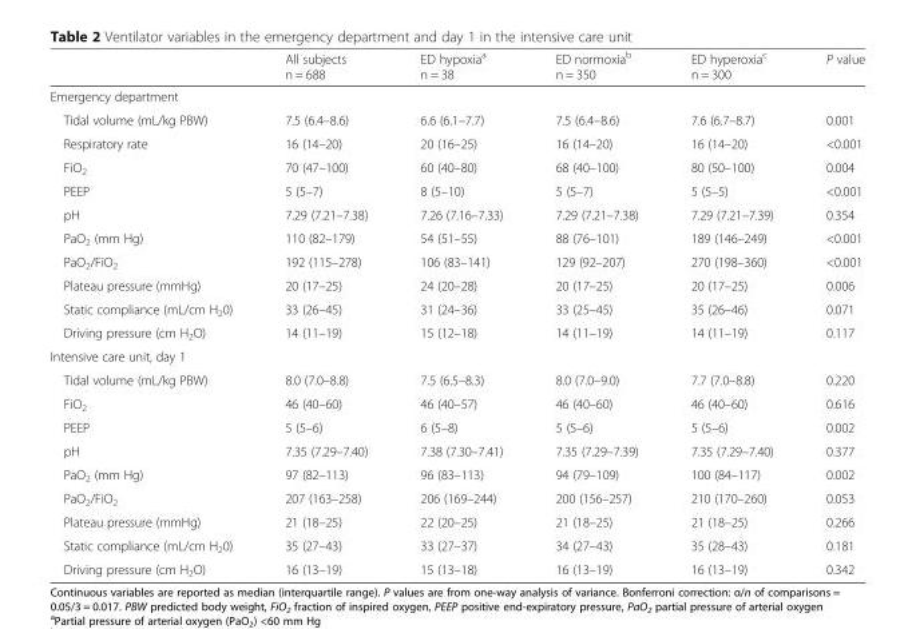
<table><thead><tr><td></td><td>All subjects n = 688</td><td>ED hypoxia<sup>a</sup> n = 38</td><td>ED normoxia<sup>b</sup> n = 350</td><td>ED hyperoxia<sup>c</sup> n = 300</td><td>P value</td></tr></thead><tbody><tr><td colspan="6">Emergency department</td></tr><tr><td>Tidal volume (mL/kg PBW)</td><td>7.5 (6.4–8.6)</td><td>6.6 (6.1–7.7)</td><td>7.5 (6.4–8.6)</td><td>7.6 (6.7–8.7)</td><td>0.001</td></tr><tr><td>Respiratory rate</td><td>16 (14–20)</td><td>20 (16–25)</td><td>16 (14–20)</td><td>16 (14–20)</td><td>&lt;0.001</td></tr><tr><td>FiO<sub>2</sub></td><td>70 (47–100)</td><td>60 (40–80)</td><td>68 (40–100)</td><td>80 (50–100)</td><td>0.004</td></tr><tr><td>PEEP</td><td>5 (5–7)</td><td>8 (5–10)</td><td>5 (5–7)</td><td>5 (5–5)</td><td>&lt;0.001</td></tr><tr><td>pH</td><td>7.29 (7.21–7.38)</td><td>7.26 (7.16–7.33)</td><td>7.29 (7.21–7.38)</td><td>7.29 (7.21–7.39)</td><td>0.354</td></tr><tr><td>PaO<sub>2</sub> (mm Hg)</td><td>110 (82–179)</td><td>54 (51–55)</td><td>88 (76–101)</td><td>189 (146–249)</td><td>&lt;0.001</td></tr><tr><td>PaO<sub>2</sub>/FiO<sub>2</sub></td><td>192 (115–278)</td><td>106 (83–141)</td><td>129 (92–207)</td><td>270 (198–360)</td><td>&lt;0.001</td></tr><tr><td>Plateau pressure (mmHg)</td><td>20 (17–25)</td><td>24 (20–28)</td><td>20 (17–25)</td><td>20 (17–25)</td><td>0.006</td></tr><tr><td>Static compliance (mL/cm H<sub>2</sub>0)</td><td>33 (26–45)</td><td>31 (24–36)</td><td>33 (25–45)</td><td>35 (26–46)</td><td>0.071</td></tr><tr><td>Driving pressure (cm H<sub>2</sub>O)</td><td>14 (11–19)</td><td>15 (12–18)</td><td>14 (11–19)</td><td>14 (11–19)</td><td>0.117</td></tr><tr><td colspan="6">Intensive care unit, day 1</td></tr><tr><td>Tidal volume (mL/kg PBW)</td><td>8.0 (7.0–8.8)</td><td>7.5 (6.5–8.3)</td><td>8.0 (7.0–9.0)</td><td>7.7 (7.0–8.8)</td><td>0.220</td></tr><tr><td>FiO<sub>2</sub></td><td>46 (40–60)</td><td>46 (40–57)</td><td>46 (40–60)</td><td>46 (40–60)</td><td>0.616</td></tr><tr><td>PEEP</td><td>5 (5–6)</td><td>6 (5–8)</td><td>5 (5–6)</td><td>5 (5–6)</td><td>0.002</td></tr><tr><td>pH</td><td>7.35 (7.29–7.40)</td><td>7.38 (7.30–7.41)</td><td>7.35 (7.29–7.39)</td><td>7.35 (7.29–7.40)</td><td>0.377</td></tr><tr><td>PaO<sub>2</sub> (mm Hg)</td><td>97 (82–113)</td><td>96 (83–113)</td><td>94 (79–109)</td><td>100 (84–117)</td><td>0.002</td></tr><tr><td>PaO<sub>2</sub>/FiO<sub>2</sub></td><td>207 (163–258)</td><td>206 (169–244)</td><td>200 (156–257)</td><td>210 (170–260)</td><td>0.053</td></tr><tr><td>Plateau pressure (mmHg)</td><td>21 (18–25)</td><td>22 (20–25)</td><td>21 (18–25)</td><td>21 (18–25)</td><td>0.266</td></tr><tr><td>Static compliance (mL/cm H<sub>2</sub>0)</td><td>35 (27–43)</td><td>33 (27–37)</td><td>34 (27–43)</td><td>35 (28–43)</td><td>0.181</td></tr><tr><td>Driving pressure (cm H<sub>2</sub>O)</td><td>16 (13–19)</td><td>15 (13–18)</td><td>16 (13–19)</td><td>16 (13–19)</td><td>0.342</td></tr></tbody></table>